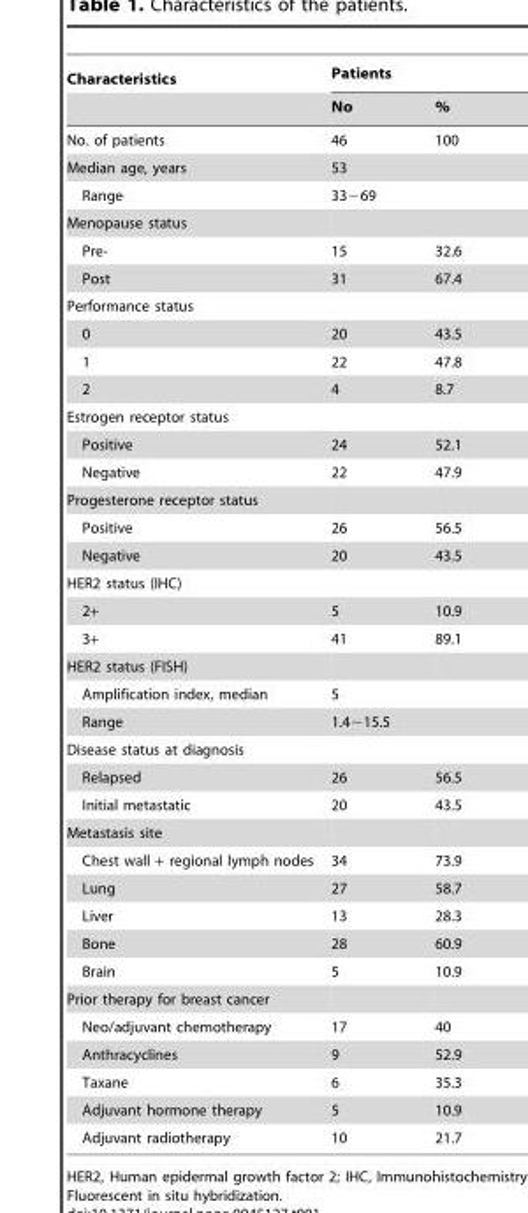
<table><thead><tr><td rowspan="2">Characteristics</td><td colspan="2">Patients</td></tr><tr><td>No</td><td>%</td></tr></thead><tbody><tr><td>No. of patients</td><td>46</td><td>100</td></tr><tr><td>Median age, years</td><td colspan="2">53</td></tr><tr><td>Range</td><td colspan="2">33−69</td></tr><tr><td colspan="3">Menopause status</td></tr><tr><td>Pre-</td><td>15</td><td>32.6</td></tr><tr><td>Post</td><td>31</td><td>67.4</td></tr><tr><td colspan="3">Performance status</td></tr><tr><td>0</td><td>20</td><td>43.5</td></tr><tr><td>1</td><td>22</td><td>47.8</td></tr><tr><td>2</td><td>4</td><td>8.7</td></tr><tr><td colspan="3">Estrogen receptor status</td></tr><tr><td>Positive</td><td>24</td><td>52.1</td></tr><tr><td>Negative</td><td>22</td><td>47.9</td></tr><tr><td colspan="3">Progesterone receptor status</td></tr><tr><td>Positive</td><td>26</td><td>56.5</td></tr><tr><td>Negative</td><td>20</td><td>43.5</td></tr><tr><td colspan="3">HER2 status (IHC)</td></tr><tr><td>2+</td><td>5</td><td>10.9</td></tr><tr><td>3+</td><td>41</td><td>89.1</td></tr><tr><td colspan="3">HER2 status (FISH)</td></tr><tr><td>Amplification index, median</td><td colspan="2">5</td></tr><tr><td>Range</td><td colspan="2">1.4−15.5</td></tr><tr><td colspan="3">Disease status at diagnosis</td></tr><tr><td>Relapsed</td><td>26</td><td>56.5</td></tr><tr><td>Initial metastatic</td><td>20</td><td>43.5</td></tr><tr><td colspan="3">Metastasis site</td></tr><tr><td>Chest wall + regional lymph nodes</td><td>34</td><td>73.9</td></tr><tr><td>Lung</td><td>27</td><td>58.7</td></tr><tr><td>Liver</td><td>13</td><td>28.3</td></tr><tr><td>Bone</td><td>28</td><td>60.9</td></tr><tr><td>Brain</td><td>5</td><td>10.9</td></tr><tr><td colspan="3">Prior therapy for breast cancer</td></tr><tr><td>Neo/adjuvant chemotherapy</td><td>17</td><td>40</td></tr><tr><td>Anthracyclines</td><td>9</td><td>52.9</td></tr><tr><td>Taxane</td><td>6</td><td>35.3</td></tr><tr><td>Adjuvant hormone therapy</td><td>5</td><td>10.9</td></tr><tr><td>Adjuvant radiotherapy</td><td>10</td><td>21.7</td></tr></tbody></table>